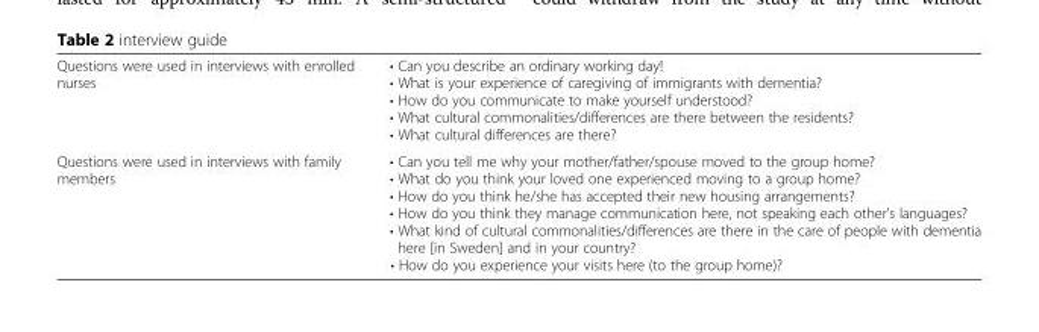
<table><tbody><tr><td>Questions were used in interviews with enrolled nurses</td><td>• Can you describe an ordinary working day! • What is your experience of caregiving of immigrants with dementia? • How do you communicate to make yourself understood? • What cultural commonalities/differences are there between the residents? • What cultural differences are there?</td></tr><tr><td>Questions were used in interviews with family members</td><td>• Can you tell me why your mother/father/spouse moved to the group home? • What do you think your loved one experienced moving to a group home? • How do you think he/she has accepted their new housing arrangements? • How do you think they manage communication here, not speaking each other’s languages? • What kind of cultural commonalities/differences are there in the care of people with dementia here [in Sweden] and in your country? • How do you experience your visits here (to the group home)?</td></tr></tbody></table>